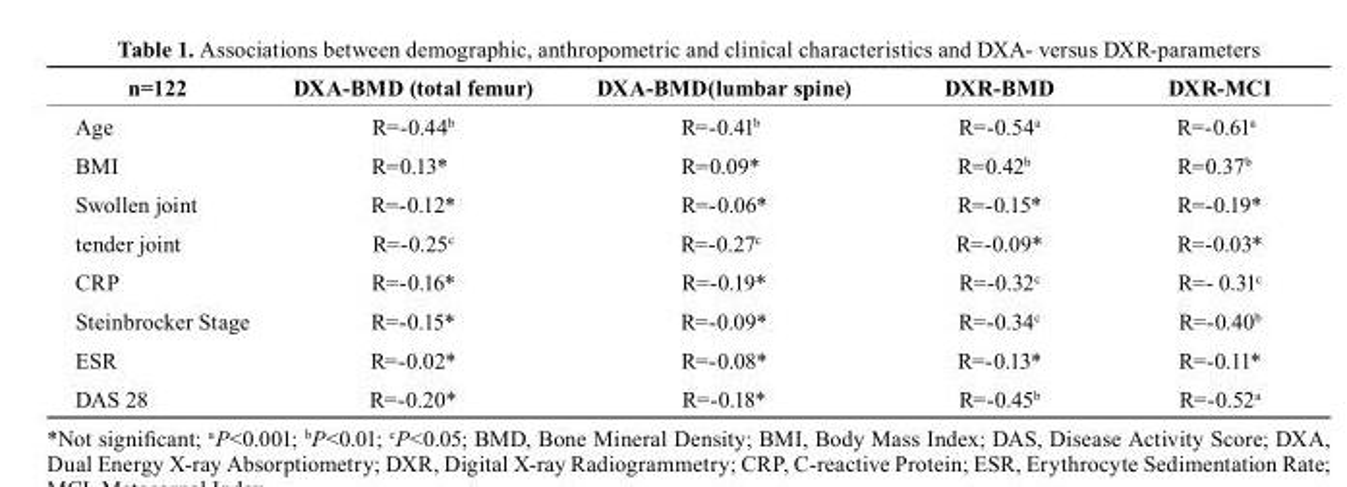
<table><thead><tr><td>n=122</td><td>DXA-bMD (total femur)</td><td>DXA-bMD(lumbar spine)</td><td>DXr-bMD</td><td>DXr-McI</td></tr></thead><tbody><tr><td>Age</td><td>R=-0.44<sup>b</sup></td><td>R=-0.41<sup>b</sup></td><td>R=-0.54<sup>a</sup></td><td>R=-0.61<sup>a</sup></td></tr><tr><td>BMI</td><td>R=0.13*</td><td>R=0.09*</td><td>R=0.42<sup>b</sup></td><td>R=0.37<sup>b</sup></td></tr><tr><td>Swollen joint</td><td>R=-0.12*</td><td>R=-0.06*</td><td>R=-0.15*</td><td>R=-0.19*</td></tr><tr><td>tender joint</td><td>R=-0.25<sup>c</sup></td><td>R=-0.27<sup>c</sup></td><td>R=-0.09*</td><td>R=-0.03*</td></tr><tr><td>CRP</td><td>R=-0.16*</td><td>R=-0.19*</td><td>R=-0.32<sup>c</sup></td><td>R=- 0.31<sup>c</sup></td></tr><tr><td>Steinbrocker Stage</td><td>R=-0.15*</td><td>R=-0.09*</td><td>R=-0.34<sup>c</sup></td><td>R=-0.40<sup>b</sup></td></tr><tr><td>ESR</td><td>R=-0.02*</td><td>R=-0.08*</td><td>R=-0.13*</td><td>R=-0.11*</td></tr><tr><td>DAS 28</td><td>R=-0.20*</td><td>R=-0.18*</td><td>R=-0.45<sup>b</sup></td><td>R=-0.52<sup>a</sup></td></tr></tbody></table>